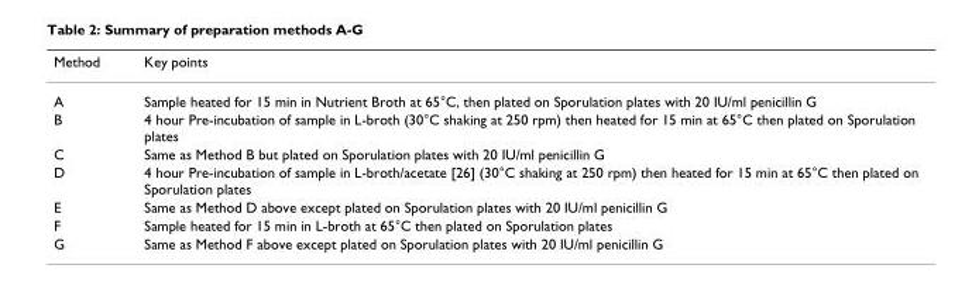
<table><thead><tr><td>Method</td><td>Key points</td></tr></thead><tbody><tr><td>A</td><td>Sample heated for 15 min in Nutrient Broth at 65°C, then plated on Sporulation plates with 20 IU/ml penicillin G</td></tr><tr><td>B</td><td>4 hour Pre-incubation of sample in L-broth (30°C shaking at 250 rpm) then heated for 15 min at 65°C then plated on Sporulation plates</td></tr><tr><td>C</td><td>Same as Method B but plated on Sporulation plates with 20 IU/ml penicillin G</td></tr><tr><td>D</td><td>4 hour Pre-incubation of sample in L-broth/acetate [26] (30°C shaking at 250 rpm) then heated for 15 min at 65°C then plated on Sporulation plates</td></tr><tr><td>E</td><td>Same as Method D above except plated on Sporulation plates with 20 IU/ml penicillin G</td></tr><tr><td>F</td><td>Sample heated for 15 min in L-broth at 65°C then plated on Sporulation plates</td></tr><tr><td>G</td><td>Same as Method F above except plated on Sporulation plates with 20 IU/ml penicillin G</td></tr></tbody></table>